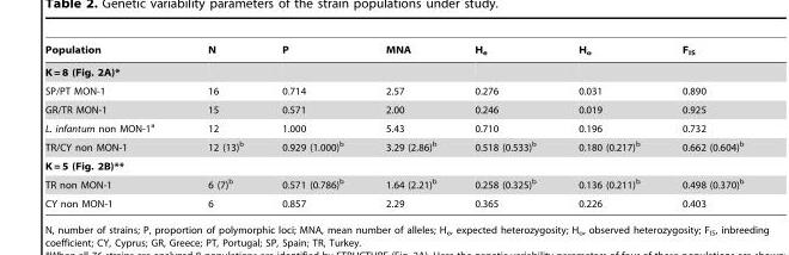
<table><thead><tr><td>Population</td><td>N</td><td>P</td><td>MNA</td><td>H<sub>e</sub></td><td>H<sub>o</sub></td><td>F<sub>IS</sub></td></tr></thead><tbody><tr><td colspan="7">K = 8 (Fig. 2A)*</td></tr><tr><td>SP/PT MON-1</td><td>16</td><td>0.714</td><td>2.57</td><td>0.276</td><td>0.031</td><td>0.890</td></tr><tr><td>GR/TR MON-1</td><td>15</td><td>0.571</td><td>2.00</td><td>0.246</td><td>0.019</td><td>0.925</td></tr><tr><td>L. infantum non MON-1<sup>a</sup></td><td>12</td><td>1.000</td><td>5.43</td><td>0.710</td><td>0.196</td><td>0.732</td></tr><tr><td>TR/CY non MON-1</td><td>12 (13)<sup>b</sup></td><td>0.929 (1.000)<sup>b</sup></td><td>3.29 (2.86)<sup>b</sup></td><td>0.518 (0.533)<sup>b</sup></td><td>0.180 (0.217)<sup>b</sup></td><td>0.662 (0.604)<sup>b</sup></td></tr><tr><td colspan="7">K = 5 (Fig. 2B)**</td></tr><tr><td>TR non MON-1</td><td>6 (7)<sup>b</sup></td><td>0.571 (0.786)<sup>b</sup></td><td>1.64 (2.21)<sup>b</sup></td><td>0.258 (0.325)<sup>b</sup></td><td>0.136 (0.211)<sup>b</sup></td><td>0.498 (0.370)<sup>b</sup></td></tr><tr><td>CY non MON-1</td><td>6</td><td>0.857</td><td>2.29</td><td>0.365</td><td>0.226</td><td>0.403</td></tr></tbody></table>